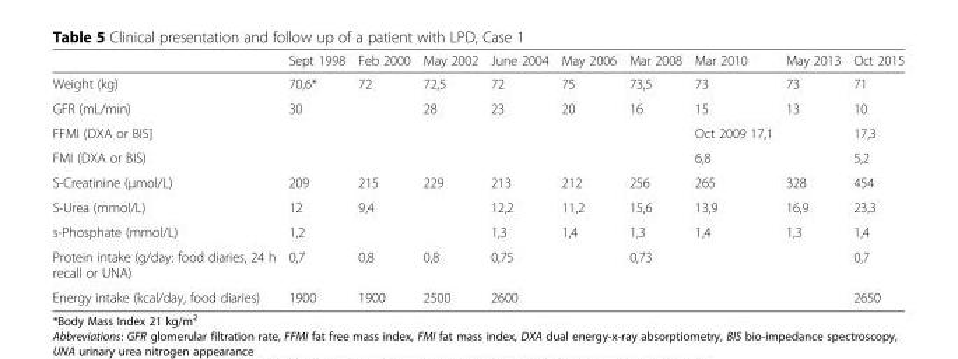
<table><thead><tr><td></td><td>Sept 1998</td><td>Feb 2000</td><td>May 2002</td><td>June 2004</td><td>May 2006</td><td>Mar 2008</td><td>Mar 2010</td><td>May 2013</td><td>Oct 2015</td></tr></thead><tbody><tr><td>Weight (kg)</td><td>70,6*</td><td>72</td><td>72,5</td><td>72</td><td>75</td><td>73,5</td><td>73</td><td>73</td><td>71</td></tr><tr><td>GFR (mL/min)</td><td>30</td><td></td><td>28</td><td>23</td><td>20</td><td>16</td><td>15</td><td>13</td><td>10</td></tr><tr><td>FFMI (DXA or BIS]</td><td></td><td></td><td></td><td></td><td></td><td></td><td>Oct 2009 17,1</td><td></td><td>17,3</td></tr><tr><td>FMI (DXA or BIS)</td><td></td><td></td><td></td><td></td><td></td><td></td><td>6,8</td><td></td><td>5,2</td></tr><tr><td>S-Creatinine (μmol/L)</td><td>209</td><td>215</td><td>229</td><td>213</td><td>212</td><td>256</td><td>265</td><td>328</td><td>454</td></tr><tr><td>S-Urea (mmol/L)</td><td>12</td><td>9,4</td><td></td><td>12,2</td><td>11,2</td><td>15,6</td><td>13,9</td><td>16,9</td><td>23,3</td></tr><tr><td>s-Phosphate (mmol/L)</td><td>1,2</td><td></td><td></td><td>1,3</td><td>1,4</td><td>1,3</td><td>1,4</td><td>1,3</td><td>1,4</td></tr><tr><td>Protein intake (g/day: food diaries, 24 h recall or UNA)</td><td>0,7</td><td>0,8</td><td>0,8</td><td>0,75</td><td></td><td>0,73</td><td></td><td></td><td>0,7</td></tr><tr><td>Energy intake (kcal/day, food diaries)</td><td>1900</td><td>1900</td><td>2500</td><td>2600</td><td></td><td></td><td></td><td></td><td>2650</td></tr></tbody></table>